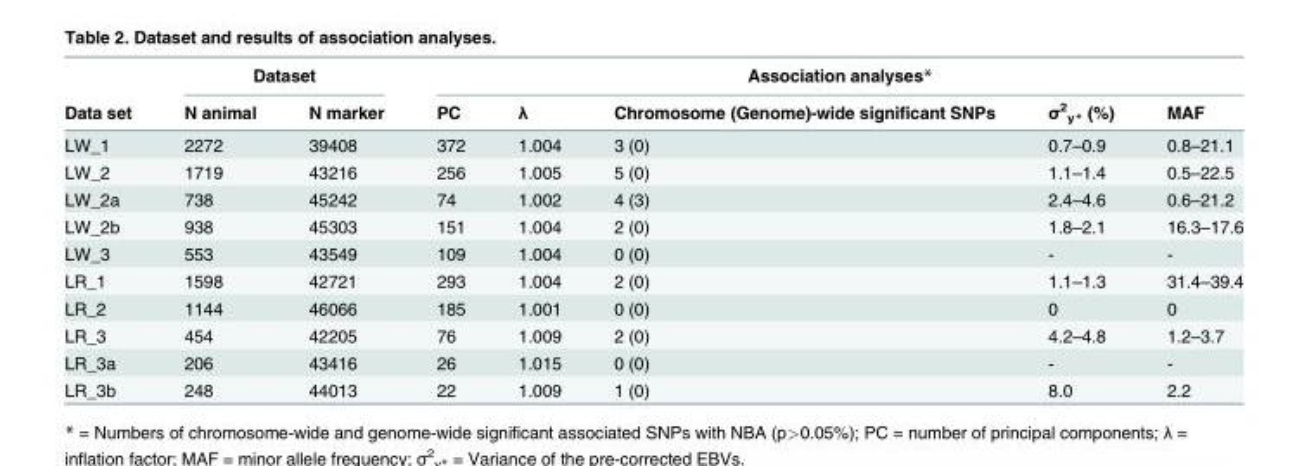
<table><thead><tr><td rowspan="2">Data set</td><td colspan="2">Dataset</td><td colspan="5">Association analyses*</td></tr><tr><td>N animal</td><td>N marker</td><td>PC</td><td>λ</td><td>Chromosome (Genome)-wide significant SNPs</td><td>σ<sup>2</sup> <sub>y*</sub> (%)</td><td>MAF</td></tr></thead><tbody><tr><td>LW_1</td><td>2272</td><td>39408</td><td>372</td><td>1.004</td><td>3 (0)</td><td>0.7–0.9</td><td>0.8–21.1</td></tr><tr><td>LW_2</td><td>1719</td><td>43216</td><td>256</td><td>1.005</td><td>5 (0)</td><td>1.1–1.4</td><td>0.5–22.5</td></tr><tr><td>LW_2a</td><td>738</td><td>45242</td><td>74</td><td>1.002</td><td>4 (3)</td><td>2.4–4.6</td><td>0.6–21.2</td></tr><tr><td>LW_2b</td><td>938</td><td>45303</td><td>151</td><td>1.004</td><td>2 (0)</td><td>1.8–2.1</td><td>16.3–17.6</td></tr><tr><td>LW_3</td><td>553</td><td>43549</td><td>109</td><td>1.004</td><td>0 (0)</td><td>-</td><td>-</td></tr><tr><td>LR_1</td><td>1598</td><td>42721</td><td>293</td><td>1.004</td><td>2 (0)</td><td>1.1–1.3</td><td>31.4–39.4</td></tr><tr><td>LR_2</td><td>1144</td><td>46066</td><td>185</td><td>1.001</td><td>0 (0)</td><td>0</td><td>0</td></tr><tr><td>LR_3</td><td>454</td><td>42205</td><td>76</td><td>1.009</td><td>2 (0)</td><td>4.2–4.8</td><td>1.2–3.7</td></tr><tr><td>LR_3a</td><td>206</td><td>43416</td><td>26</td><td>1.015</td><td>0 (0)</td><td>-</td><td>-</td></tr><tr><td>LR_3b</td><td>248</td><td>44013</td><td>22</td><td>1.009</td><td>1 (0)</td><td>8.0</td><td>2.2</td></tr></tbody></table>